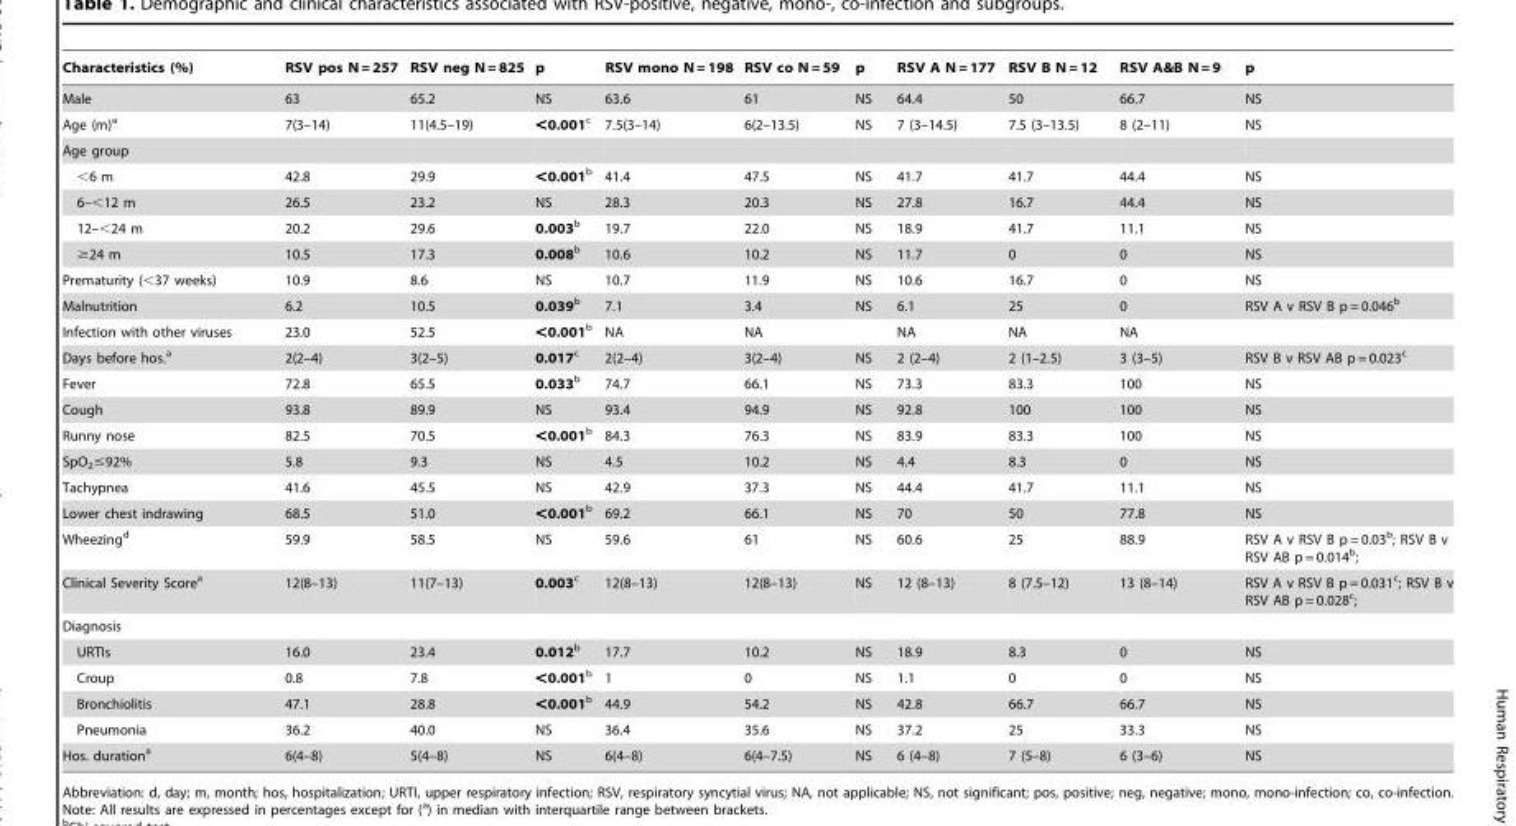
<table><thead><tr><td>Characteristics (%)</td><td>RSV pos N = 257</td><td>RSV neg N = 825</td><td>p</td><td>RSV mono N = 198</td><td>RSV co N = 59</td><td>p</td><td>RSV A N = 177</td><td>RSV B N = 12</td><td>RSV A&amp;B N = 9</td><td>p</td></tr></thead><tbody><tr><td>Male</td><td>63</td><td>65.2</td><td>NS</td><td>63.6</td><td>61</td><td>NS</td><td>64.4</td><td>50</td><td>66.7</td><td>NS</td></tr><tr><td>Age (m)<sup>a</sup></td><td>7(3–14)</td><td>11(4.5–19)</td><td>&lt;0.001c</td><td>7.5(3–14)</td><td>6(2–13.5)</td><td>NS</td><td>7 (3–14.5)</td><td>7.5 (3–13.5)</td><td>8 (2–11)</td><td>NS</td></tr><tr><td colspan="11">Age group</td></tr><tr><td>&lt;6 m</td><td>42.8</td><td>29.9</td><td>&lt;0.001b</td><td>41.4</td><td>47.5</td><td>NS</td><td>41.7</td><td>41.7</td><td>44.4</td><td>NS</td></tr><tr><td>6–&lt;12 m</td><td>26.5</td><td>23.2</td><td>NS</td><td>28.3</td><td>20.3</td><td>NS</td><td>27.8</td><td>16.7</td><td>44.4</td><td>NS</td></tr><tr><td>12–&lt;24 m</td><td>20.2</td><td>29.6</td><td>0.003b</td><td>19.7</td><td>22.0</td><td>NS</td><td>18.9</td><td>41.7</td><td>11.1</td><td>NS</td></tr><tr><td>≥24 m</td><td>10.5</td><td>17.3</td><td>0.008b</td><td>10.6</td><td>10.2</td><td>NS</td><td>11.7</td><td>0</td><td>0</td><td>NS</td></tr><tr><td>Prematurity (&lt;37 weeks)</td><td>10.9</td><td>8.6</td><td>NS</td><td>10.7</td><td>11.9</td><td>NS</td><td>10.6</td><td>16.7</td><td>0</td><td>NS</td></tr><tr><td>Malnutrition</td><td>6.2</td><td>10.5</td><td>0.039b</td><td>7.1</td><td>3.4</td><td>NS</td><td>6.1</td><td>25</td><td>0</td><td>RSV A v RSV B p = 0.046<sup>b</sup></td></tr><tr><td>Infection with other viruses</td><td>23.0</td><td>52.5</td><td>&lt;0.001b</td><td>NA</td><td>NA</td><td></td><td>NA</td><td>NA</td><td>NA</td><td></td></tr><tr><td>Days before hos.<sup>a</sup></td><td>2(2–4)</td><td>3(2–5)</td><td>0.017c</td><td>2(2–4)</td><td>3(2–4)</td><td>NS</td><td>2 (2–4)</td><td>2 (1–2.5)</td><td>3 (3–5)</td><td>RSV B v RSV AB p = 0.023<sup>c</sup></td></tr><tr><td>Fever</td><td>72.8</td><td>65.5</td><td>0.033b</td><td>74.7</td><td>66.1</td><td>NS</td><td>73.3</td><td>83.3</td><td>100</td><td>NS</td></tr><tr><td>Cough</td><td>93.8</td><td>89.9</td><td>NS</td><td>93.4</td><td>94.9</td><td>NS</td><td>92.8</td><td>100</td><td>100</td><td>NS</td></tr><tr><td>Runny nose</td><td>82.5</td><td>70.5</td><td>&lt;0.001b</td><td>84.3</td><td>76.3</td><td>NS</td><td>83.9</td><td>83.3</td><td>100</td><td>NS</td></tr><tr><td>SpO<sub>2</sub>≤92%</td><td>5.8</td><td>9.3</td><td>NS</td><td>4.5</td><td>10.2</td><td>NS</td><td>4.4</td><td>8.3</td><td>0</td><td>NS</td></tr><tr><td>Tachypnea</td><td>41.6</td><td>45.5</td><td>NS</td><td>42.9</td><td>37.3</td><td>NS</td><td>44.4</td><td>41.7</td><td>11.1</td><td>NS</td></tr><tr><td>Lower chest indrawing</td><td>68.5</td><td>51.0</td><td>&lt;0.001b</td><td>69.2</td><td>66.1</td><td>NS</td><td>70</td><td>50</td><td>77.8</td><td>NS</td></tr><tr><td>Wheezing<sup>d</sup></td><td>59.9</td><td>58.5</td><td>NS</td><td>59.6</td><td>61</td><td>NS</td><td>60.6</td><td>25</td><td>88.9</td><td>RSV A v RSV B p = 0.03<sup>b</sup>; RSV B v RSV AB p = 0.014<sup>b</sup>;</td></tr><tr><td>Clinical Severity Score<sup>a</sup></td><td>12(8–13)</td><td>11(7–13)</td><td>0.003c</td><td>12(8–13)</td><td>12(8–13)</td><td>NS</td><td>12 (8–13)</td><td>8 (7.5–12)</td><td>13 (8–14)</td><td>RSV A v RSV B p = 0.031<sup>c</sup>; RSV B v RSV AB p = 0.028<sup>c</sup>;</td></tr><tr><td colspan="11">Diagnosis</td></tr><tr><td>URTIs</td><td>16.0</td><td>23.4</td><td>0.012b</td><td>17.7</td><td>10.2</td><td>NS</td><td>18.9</td><td>8.3</td><td>0</td><td>NS</td></tr><tr><td>Croup</td><td>0.8</td><td>7.8</td><td>&lt;0.001b</td><td>1</td><td>0</td><td>NS</td><td>1.1</td><td>0</td><td>0</td><td>NS</td></tr><tr><td>Bronchiolitis</td><td>47.1</td><td>28.8</td><td>&lt;0.001b</td><td>44.9</td><td>54.2</td><td>NS</td><td>42.8</td><td>66.7</td><td>66.7</td><td>NS</td></tr><tr><td>Pneumonia</td><td>36.2</td><td>40.0</td><td>NS</td><td>36.4</td><td>35.6</td><td>NS</td><td>37.2</td><td>25</td><td>33.3</td><td>NS</td></tr><tr><td>Hos. duration<sup>a</sup></td><td>6(4–8)</td><td>5(4–8)</td><td>NS</td><td>6(4–8)</td><td>6(4–7.5)</td><td>NS</td><td>6 (4–8)</td><td>7 (5–8)</td><td>6 (3–6)</td><td>NS</td></tr></tbody></table>